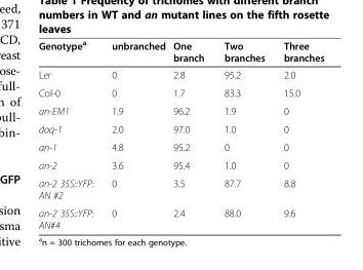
<table><thead><tr><td>Genotype<sup>a</sup></td><td>unbranched</td><td>One branch</td><td>Two branches</td><td>Three branches</td></tr></thead><tbody><tr><td>Ler</td><td>0</td><td>2.8</td><td>95.2</td><td>2.0</td></tr><tr><td>Col-0</td><td>0</td><td>1.7</td><td>83.3</td><td>15.0</td></tr><tr><td>an-EM1</td><td>1.9</td><td>96.2</td><td>1.9</td><td>0</td></tr><tr><td>doq-1</td><td>2.0</td><td>97.0</td><td>1.0</td><td>0</td></tr><tr><td>an-1</td><td>4.8</td><td>95.2</td><td>0</td><td>0</td></tr><tr><td>an-2</td><td>3.6</td><td>95.4</td><td>1.0</td><td>0</td></tr><tr><td>an-2 35S::YFP: AN #2</td><td>0</td><td>3.5</td><td>87.7</td><td>8.8</td></tr><tr><td>an-2 35S::YFP: AN#4</td><td>0</td><td>2.4</td><td>88.0</td><td>9.6</td></tr></tbody></table>